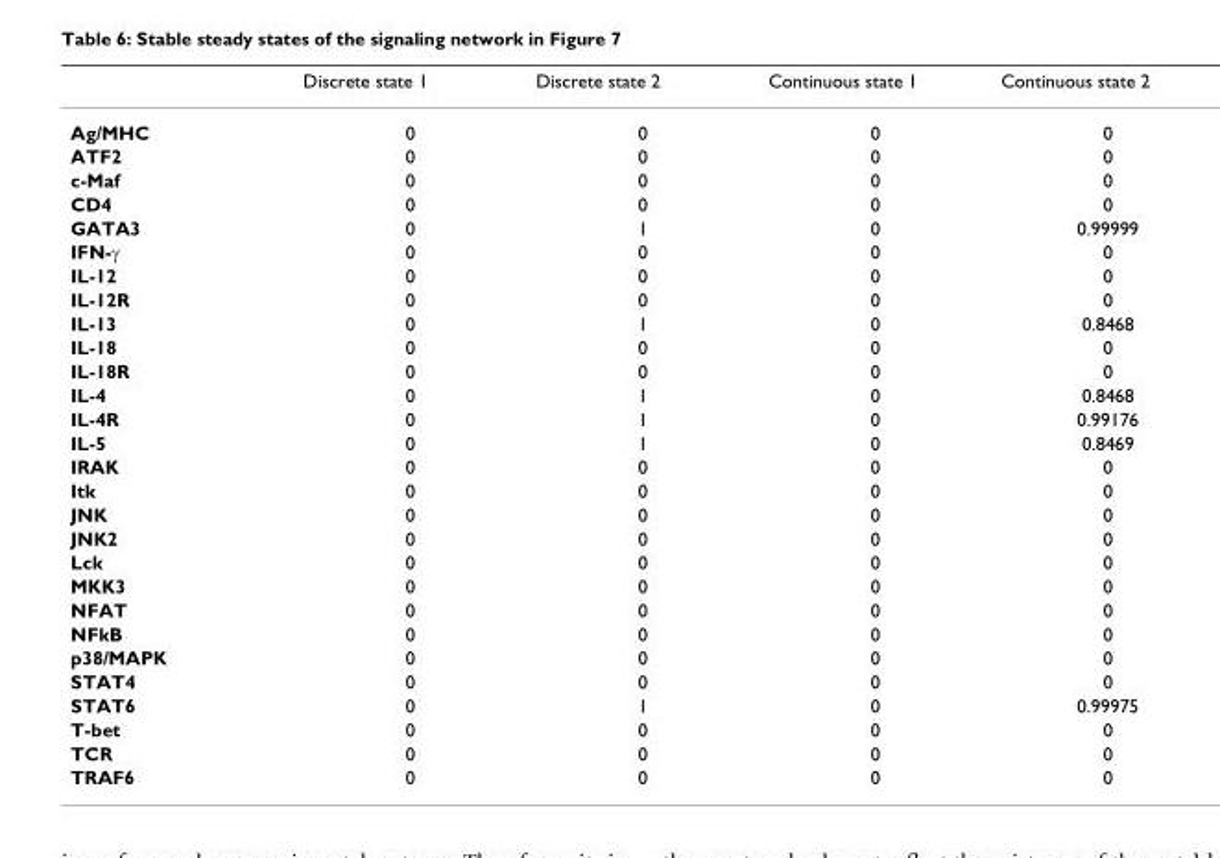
<table><thead><tr><td></td><td>Discrete state 1</td><td>Discrete state 2</td><td>Continuous state 1</td><td>Continuous state 2</td></tr></thead><tbody><tr><td>Ag/MHC</td><td>0</td><td>0</td><td>0</td><td>0</td></tr><tr><td>ATF2</td><td>0</td><td>0</td><td>0</td><td>0</td></tr><tr><td>c-Maf</td><td>0</td><td>0</td><td>0</td><td>0</td></tr><tr><td>CD4</td><td>0</td><td>0</td><td>0</td><td>0</td></tr><tr><td>GATA3</td><td>0</td><td>1</td><td>0</td><td>0.99999</td></tr><tr><td>IFN-γ</td><td>0</td><td>0</td><td>0</td><td>0</td></tr><tr><td>IL-12</td><td>0</td><td>0</td><td>0</td><td>0</td></tr><tr><td>IL-12R</td><td>0</td><td>0</td><td>0</td><td>0</td></tr><tr><td>IL-13</td><td>0</td><td>1</td><td>0</td><td>0.8468</td></tr><tr><td>IL-18</td><td>0</td><td>0</td><td>0</td><td>0</td></tr><tr><td>IL-18R</td><td>0</td><td>0</td><td>0</td><td>0</td></tr><tr><td>IL-4</td><td>0</td><td>1</td><td>0</td><td>0.8468</td></tr><tr><td>IL-4R</td><td>0</td><td>1</td><td>0</td><td>0.99176</td></tr><tr><td>IL-5</td><td>0</td><td>1</td><td>0</td><td>0.8469</td></tr><tr><td>IRAK</td><td>0</td><td>0</td><td>0</td><td>0</td></tr><tr><td>Itk</td><td>0</td><td>0</td><td>0</td><td>0</td></tr><tr><td>JNK</td><td>0</td><td>0</td><td>0</td><td>0</td></tr><tr><td>JNK2</td><td>0</td><td>0</td><td>0</td><td>0</td></tr><tr><td>Lck</td><td>0</td><td>0</td><td>0</td><td>0</td></tr><tr><td>MKK3</td><td>0</td><td>0</td><td>0</td><td>0</td></tr><tr><td>NFAT</td><td>0</td><td>0</td><td>0</td><td>0</td></tr><tr><td>NFkB</td><td>0</td><td>0</td><td>0</td><td>0</td></tr><tr><td>p38/MAPK</td><td>0</td><td>0</td><td>0</td><td>0</td></tr><tr><td>STAT4</td><td>0</td><td>0</td><td>0</td><td>0</td></tr><tr><td>STAT6</td><td>0</td><td>1</td><td>0</td><td>0.99975</td></tr><tr><td>T-bet</td><td>0</td><td>0</td><td>0</td><td>0</td></tr><tr><td>TCR</td><td>0</td><td>0</td><td>0</td><td>0</td></tr><tr><td>TRAF6</td><td>0</td><td>0</td><td>0</td><td>0</td></tr></tbody></table>